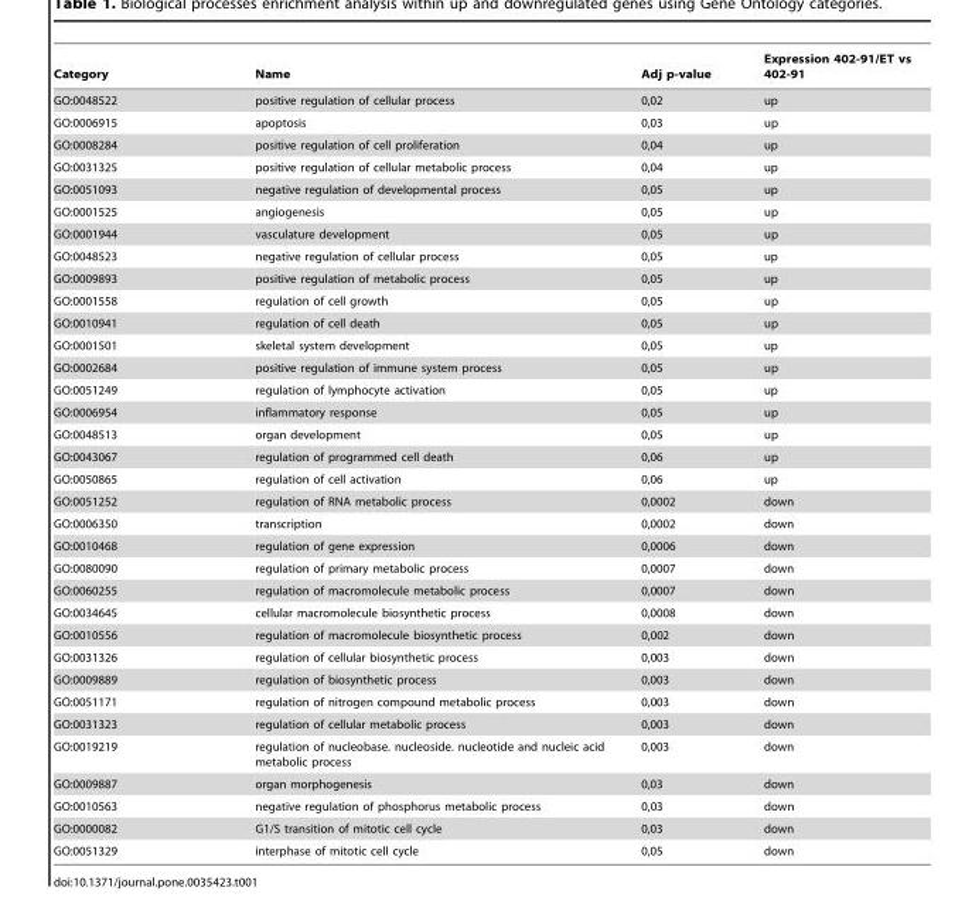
<table><thead><tr><td>Category</td><td>Name</td><td>Adj p-value</td><td>Expression 402-91/ET vs 402-91</td></tr></thead><tbody><tr><td>GO:0048522</td><td>positive regulation of cellular process</td><td>0,02</td><td>up</td></tr><tr><td>GO:0006915</td><td>apoptosis</td><td>0,03</td><td>up</td></tr><tr><td>GO:0008284</td><td>positive regulation of cell proliferation</td><td>0,04</td><td>up</td></tr><tr><td>GO:0031325</td><td>positive regulation of cellular metabolic process</td><td>0,04</td><td>up</td></tr><tr><td>GO:0051093</td><td>negative regulation of developmental process</td><td>0,05</td><td>up</td></tr><tr><td>GO:0001525</td><td>angiogenesis</td><td>0,05</td><td>up</td></tr><tr><td>GO:0001944</td><td>vasculature development</td><td>0,05</td><td>up</td></tr><tr><td>GO:0048523</td><td>negative regulation of cellular process</td><td>0,05</td><td>up</td></tr><tr><td>GO:0009893</td><td>positive regulation of metabolic process</td><td>0,05</td><td>up</td></tr><tr><td>GO:0001558</td><td>regulation of cell growth</td><td>0,05</td><td>up</td></tr><tr><td>GO:0010941</td><td>regulation of cell death</td><td>0,05</td><td>up</td></tr><tr><td>GO:0001501</td><td>skeletal system development</td><td>0,05</td><td>up</td></tr><tr><td>GO:0002684</td><td>positive regulation of immune system process</td><td>0,05</td><td>up</td></tr><tr><td>GO:0051249</td><td>regulation of lymphocyte activation</td><td>0,05</td><td>up</td></tr><tr><td>GO:0006954</td><td>inflammatory response</td><td>0,05</td><td>up</td></tr><tr><td>GO:0048513</td><td>organ development</td><td>0,05</td><td>up</td></tr><tr><td>GO:0043067</td><td>regulation of programmed cell death</td><td>0,06</td><td>up</td></tr><tr><td>GO:0050865</td><td>regulation of cell activation</td><td>0,06</td><td>up</td></tr><tr><td>GO:0051252</td><td>regulation of RNA metabolic process</td><td>0,0002</td><td>down</td></tr><tr><td>GO:0006350</td><td>transcription</td><td>0,0002</td><td>down</td></tr><tr><td>GO:0010468</td><td>regulation of gene expression</td><td>0,0006</td><td>down</td></tr><tr><td>GO:0080090</td><td>regulation of primary metabolic process</td><td>0,0007</td><td>down</td></tr><tr><td>GO:0060255</td><td>regulation of macromolecule metabolic process</td><td>0,0007</td><td>down</td></tr><tr><td>GO:0034645</td><td>cellular macromolecule biosynthetic process</td><td>0,0008</td><td>down</td></tr><tr><td>GO:0010556</td><td>regulation of macromolecule biosynthetic process</td><td>0,002</td><td>down</td></tr><tr><td>GO:0031326</td><td>regulation of cellular biosynthetic process</td><td>0,003</td><td>down</td></tr><tr><td>GO:0009889</td><td>regulation of biosynthetic process</td><td>0,003</td><td>down</td></tr><tr><td>GO:0051171</td><td>regulation of nitrogen compound metabolic process</td><td>0,003</td><td>down</td></tr><tr><td>GO:0031323</td><td>regulation of cellular metabolic process</td><td>0,003</td><td>down</td></tr><tr><td>GO:0019219</td><td>regulation of nucleobase. nucleoside. nucleotide and nucleic acid metabolic process</td><td>0,003</td><td>down</td></tr><tr><td>GO:0009887</td><td>organ morphogenesis</td><td>0,03</td><td>down</td></tr><tr><td>GO:0010563</td><td>negative regulation of phosphorus metabolic process</td><td>0,03</td><td>down</td></tr><tr><td>GO:0000082</td><td>G1/S transition of mitotic cell cycle</td><td>0,03</td><td>down</td></tr><tr><td>GO:0051329</td><td>interphase of mitotic cell cycle</td><td>0,05</td><td>down</td></tr></tbody></table>